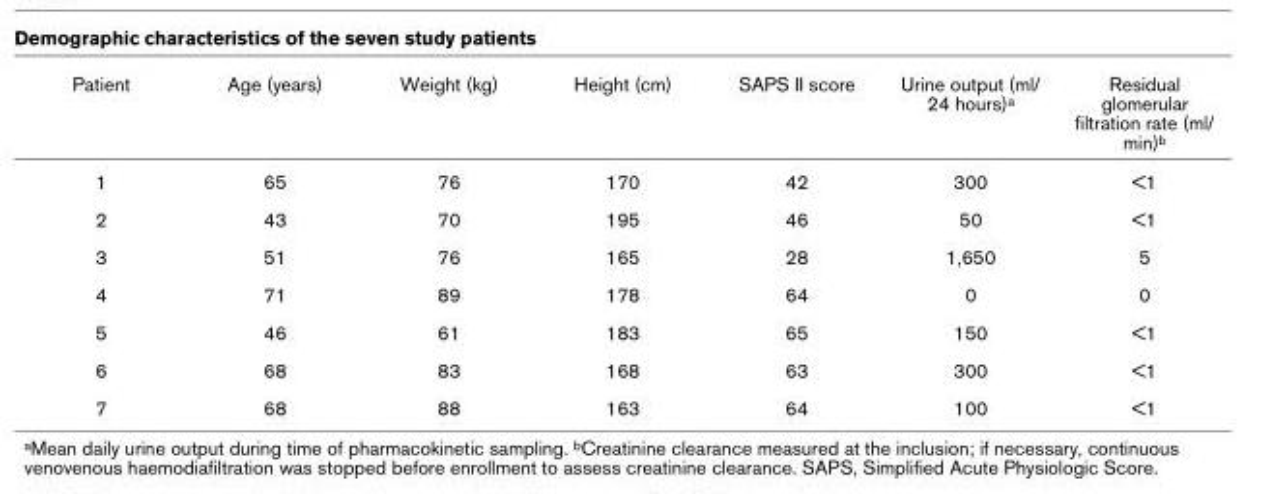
<table><thead><tr><td>Patient</td><td>Age (years)</td><td>Weight (kg)</td><td>Height (cm)</td><td>SAPS II score</td><td>Urine output (ml/ 24 hours)a</td><td>Residual glomerular filtration rate (ml/ min)b</td></tr></thead><tbody><tr><td>1</td><td>65</td><td>76</td><td>170</td><td>42</td><td>300</td><td>&lt;1</td></tr><tr><td>2</td><td>43</td><td>70</td><td>195</td><td>46</td><td>50</td><td>&lt;1</td></tr><tr><td>3</td><td>51</td><td>76</td><td>165</td><td>28</td><td>1,650</td><td>5</td></tr><tr><td>4</td><td>71</td><td>89</td><td>178</td><td>64</td><td>0</td><td>0</td></tr><tr><td>5</td><td>46</td><td>61</td><td>183</td><td>65</td><td>150</td><td>&lt;1</td></tr><tr><td>6</td><td>68</td><td>83</td><td>168</td><td>63</td><td>300</td><td>&lt;1</td></tr><tr><td>7</td><td>68</td><td>88</td><td>163</td><td>64</td><td>100</td><td>&lt;1</td></tr></tbody></table>